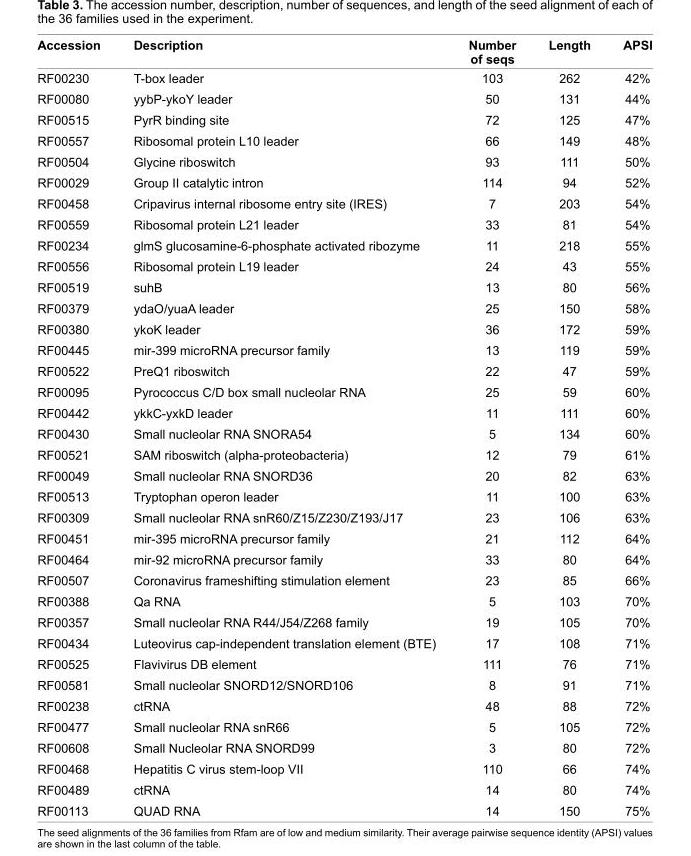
<table><thead><tr><td>Accession</td><td>Description</td><td>Number of seqs</td><td>Length</td><td>APSI</td></tr></thead><tbody><tr><td>RF00230</td><td>T-box leader</td><td>103</td><td>262</td><td>42%</td></tr><tr><td>RF00080</td><td>yybP-ykoY leader</td><td>50</td><td>131</td><td>44%</td></tr><tr><td>RF00515</td><td>PyrR binding site</td><td>72</td><td>125</td><td>47%</td></tr><tr><td>RF00557</td><td>Ribosomal protein L10 leader</td><td>66</td><td>149</td><td>48%</td></tr><tr><td>RF00504</td><td>Glycine riboswitch</td><td>93</td><td>111</td><td>50%</td></tr><tr><td>RF00029</td><td>Group II catalytic intron</td><td>114</td><td>94</td><td>52%</td></tr><tr><td>RF00458</td><td>Cripavirus internal ribosome entry site (IRES)</td><td>7</td><td>203</td><td>54%</td></tr><tr><td>RF00559</td><td>Ribosomal protein L21 leader</td><td>33</td><td>81</td><td>54%</td></tr><tr><td>RF00234</td><td>glmS glucosamine-6-phosphate activated ribozyme</td><td>11</td><td>218</td><td>55%</td></tr><tr><td>RF00556</td><td>Ribosomal protein L19 leader</td><td>24</td><td>43</td><td>55%</td></tr><tr><td>RF00519</td><td>suhB</td><td>13</td><td>80</td><td>56%</td></tr><tr><td>RF00379</td><td>ydaO/yuaA leader</td><td>25</td><td>150</td><td>58%</td></tr><tr><td>RF00380</td><td>ykoK leader</td><td>36</td><td>172</td><td>59%</td></tr><tr><td>RF00445</td><td>mir-399 microRNA precursor family</td><td>13</td><td>119</td><td>59%</td></tr><tr><td>RF00522</td><td>PreQ1 riboswitch</td><td>22</td><td>47</td><td>59%</td></tr><tr><td>RF00095</td><td>Pyrococcus C/D box small nucleolar RNA</td><td>25</td><td>59</td><td>60%</td></tr><tr><td>RF00442</td><td>ykkC-yxkD leader</td><td>11</td><td>111</td><td>60%</td></tr><tr><td>RF00430</td><td>Small nucleolar RNA SNORA54</td><td>5</td><td>134</td><td>60%</td></tr><tr><td>RF00521</td><td>SAM riboswitch (alpha-proteobacteria)</td><td>12</td><td>79</td><td>61%</td></tr><tr><td>RF00049</td><td>Small nucleolar RNA SNORD36</td><td>20</td><td>82</td><td>63%</td></tr><tr><td>RF00513</td><td>Tryptophan operon leader</td><td>11</td><td>100</td><td>63%</td></tr><tr><td>RF00309</td><td>Small nucleolar RNA snR60/Z15/Z230/Z193/J17</td><td>23</td><td>106</td><td>63%</td></tr><tr><td>RF00451</td><td>mir-395 microRNA precursor family</td><td>21</td><td>112</td><td>64%</td></tr><tr><td>RF00464</td><td>mir-92 microRNA precursor family</td><td>33</td><td>80</td><td>64%</td></tr><tr><td>RF00507</td><td>Coronavirus frameshifting stimulation element</td><td>23</td><td>85</td><td>66%</td></tr><tr><td>RF00388</td><td>Qa RNA</td><td>5</td><td>103</td><td>70%</td></tr><tr><td>RF00357</td><td>Small nucleolar RNA R44/J54/Z268 family</td><td>19</td><td>105</td><td>70%</td></tr><tr><td>RF00434</td><td>Luteovirus cap-independent translation element (BTE)</td><td>17</td><td>108</td><td>71%</td></tr><tr><td>RF00525</td><td>Flavivirus DB element</td><td>111</td><td>76</td><td>71%</td></tr><tr><td>RF00581</td><td>Small nucleolar SNORD12/SNORD106</td><td>8</td><td>91</td><td>71%</td></tr><tr><td>RF00238</td><td>ctRNA</td><td>48</td><td>88</td><td>72%</td></tr><tr><td>RF00477</td><td>Small nucleolar RNA snR66</td><td>5</td><td>105</td><td>72%</td></tr><tr><td>RF00608</td><td>Small Nucleolar RNA SNORD99</td><td>3</td><td>80</td><td>72%</td></tr><tr><td>RF00468</td><td>Hepatitis C virus stem-loop VII</td><td>110</td><td>66</td><td>74%</td></tr><tr><td>RF00489</td><td>ctRNA</td><td>14</td><td>80</td><td>74%</td></tr><tr><td>RF00113</td><td>QUAD RNA</td><td>14</td><td>150</td><td>75%</td></tr></tbody></table>